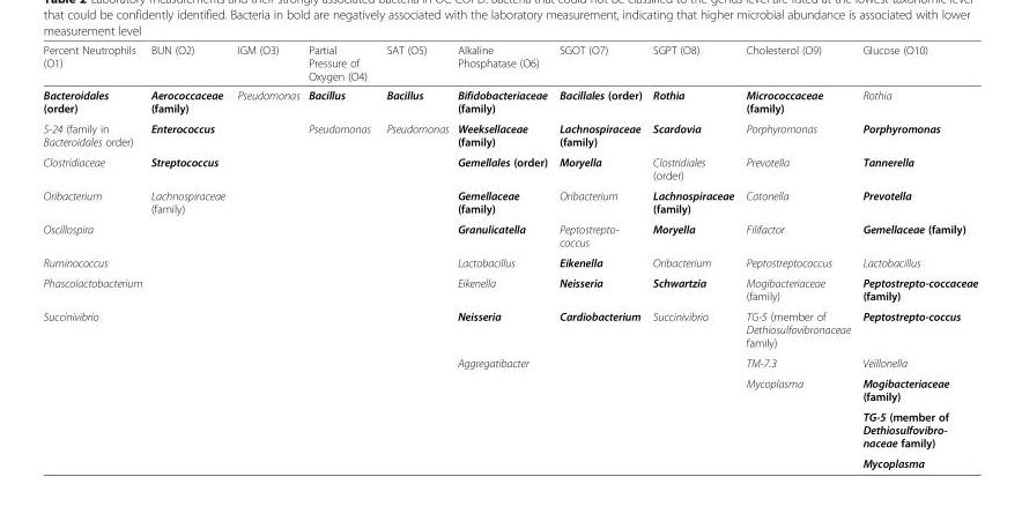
<table><thead><tr><td>Percent Neutrophils (O1)</td><td>BUN (O2)</td><td>IGM (O3)</td><td>Partial Pressure of Oxygen (O4)</td><td>SAT (O5)</td><td>Alkaline Phosphatase (O6)</td><td>SGOT (O7)</td><td>SGPT (O8)</td><td>Cholesterol (O9)</td><td>Glucose (O10)</td></tr></thead><tbody><tr><td>Bacteroidales (order)</td><td>Aerococcaceae (family)</td><td>Pseudomonas</td><td>Bacillus</td><td>Bacillus</td><td>Bifidobacteriaceae (family)</td><td>Bacillales (order)</td><td>Rothia</td><td>Micrococcaceae (family)</td><td>Rothia</td></tr><tr><td>S-24 (family in Bacteroidales order)</td><td>Enterococcus</td><td></td><td>Pseudomonas</td><td>Pseudomonas</td><td>Weeksellaceae (family)</td><td>Lachnospiraceae (family)</td><td>Scardovia</td><td>Porphyromonas</td><td>Porphyromonas</td></tr><tr><td>Clostridiaceae</td><td>Streptococcus</td><td></td><td></td><td></td><td>Gemellales (order)</td><td>Moryella</td><td>Clostridiales (order)</td><td>Prevotella</td><td>Tannerella</td></tr><tr><td>Oribacterium</td><td>Lachnospiraceae (family)</td><td></td><td></td><td></td><td>Gemellaceae (family)</td><td>Oribacterium</td><td>Lachnospiraceae (family)</td><td>Catonella</td><td>Prevotella</td></tr><tr><td>Oscillospira</td><td></td><td></td><td></td><td></td><td>Granulicatella</td><td>Peptostrepto- coccus</td><td>Moryella</td><td>Filifactor</td><td>Gemellaceae (family)</td></tr><tr><td>Ruminococcus</td><td></td><td></td><td></td><td></td><td>Lactobacillus</td><td>Eikenella</td><td>Oribacterium</td><td>Peptostreptococcus</td><td>Lactobacillus</td></tr><tr><td>Phascolactobacterium</td><td></td><td></td><td></td><td></td><td>Eikenella</td><td>Neisseria</td><td>Schwartzia</td><td>Mogibacteriaceae (family)</td><td>Peptostrepto-coccaceae (family)</td></tr><tr><td rowspan="5">Succinivibrio</td><td></td><td></td><td></td><td></td><td>Neisseria</td><td>Cardiobacterium</td><td>Succinivibrio</td><td>TG-5 (member of Dethiosulfovibronaceae family)</td><td>Peptostrepto-coccus</td></tr><tr><td></td><td></td><td></td><td></td><td>Aggregatibacter</td><td></td><td></td><td>TM-7.3</td><td>Veillonella</td></tr><tr><td></td><td></td><td></td><td></td><td></td><td></td><td></td><td>Mycoplasma</td><td>Mogibacteriaceae (family)</td></tr><tr><td></td><td></td><td></td><td></td><td></td><td></td><td></td><td></td><td>TG-5 (member of Dethiosulfovibro- naceae family)</td></tr><tr><td></td><td></td><td></td><td></td><td></td><td></td><td></td><td></td><td>Mycoplasma</td></tr></tbody></table>